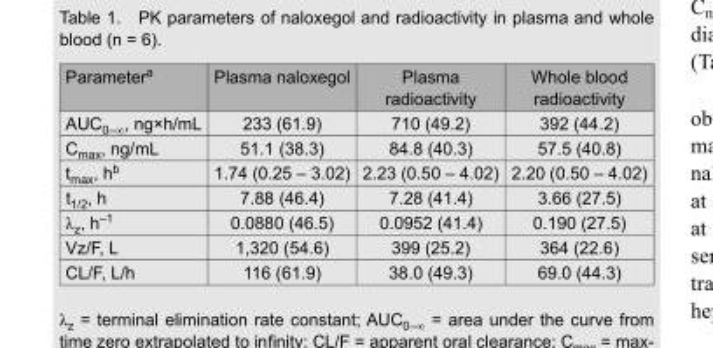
<table><thead><tr><td>Parameter<sup>a</sup></td><td>Plasma naloxegol</td><td>Plasma radioactivity</td><td>Whole blood radioactivity</td></tr></thead><tbody><tr><td>AUC<sub>0–</sub>∞, ng×h/mL</td><td>233 (61.9)</td><td>710 (49.2)</td><td>392 (44.2)</td></tr><tr><td>C<sub>max</sub>, ng/mL</td><td>51.1 (38.3)</td><td>84.8 (40.3)</td><td>57.5 (40.8)</td></tr><tr><td>t<sub>max</sub>, h<sup>b</sup></td><td>1.74 (0.25 – 3.02)</td><td>2.23 (0.50 – 4.02)</td><td>2.20 (0.50 – 4.02)</td></tr><tr><td>t<sub>1/2</sub>, h</td><td>7.88 (46.4)</td><td>7.28 (41.4)</td><td>3.66 (27.5)</td></tr><tr><td>λ<sub>z</sub>, h<sup>–1</sup></td><td>0.0880 (46.5)</td><td>0.0952 (41.4)</td><td>0.190 (27.5)</td></tr><tr><td>Vz/F, L</td><td>1,320 (54.6)</td><td>399 (25.2)</td><td>364 (22.6)</td></tr><tr><td>CL/F, L/h</td><td>116 (61.9)</td><td>38.0 (49.3)</td><td>69.0 (44.3)</td></tr></tbody></table>